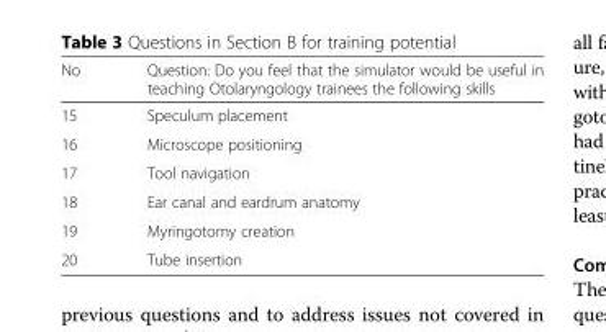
<table><thead><tr><td>No</td><td>Question: Do you feel that the simulator would be useful in teaching Otolaryngology trainees the following skills</td></tr></thead><tbody><tr><td>15</td><td>Speculum placement</td></tr><tr><td>16</td><td>Microscope positioning</td></tr><tr><td>17</td><td>Tool navigation</td></tr><tr><td>18</td><td>Ear canal and eardrum anatomy</td></tr><tr><td>19</td><td>Myringotomy creation</td></tr><tr><td>20</td><td>Tube insertion</td></tr></tbody></table>